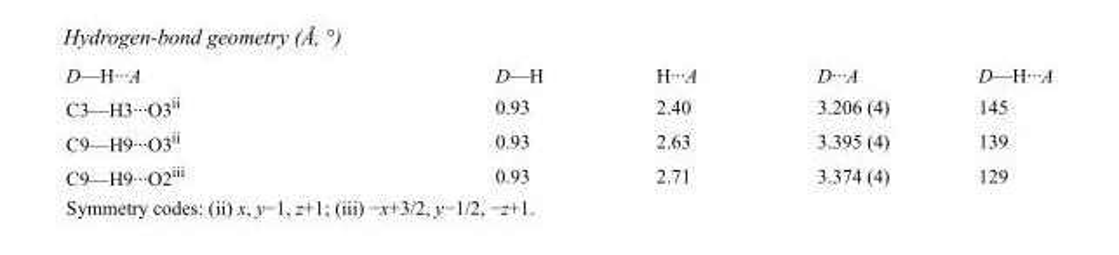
<table><tbody><tr><td>D—H···A</td><td>D—H</td><td>H···A</td><td>D···A</td><td>D—H···A</td></tr><tr><td>C3—H3···O3<sup>ii</sup></td><td>0.93</td><td>2.40</td><td>3.206 (4)</td><td>145</td></tr><tr><td>C9—H9···O3<sup>ii</sup></td><td>0.93</td><td>2.63</td><td>3.395 (4)</td><td>139</td></tr><tr><td>C9—H9···O2<sup>iii</sup></td><td>0.93</td><td>2.71</td><td>3.374 (4)</td><td>129</td></tr></tbody></table>